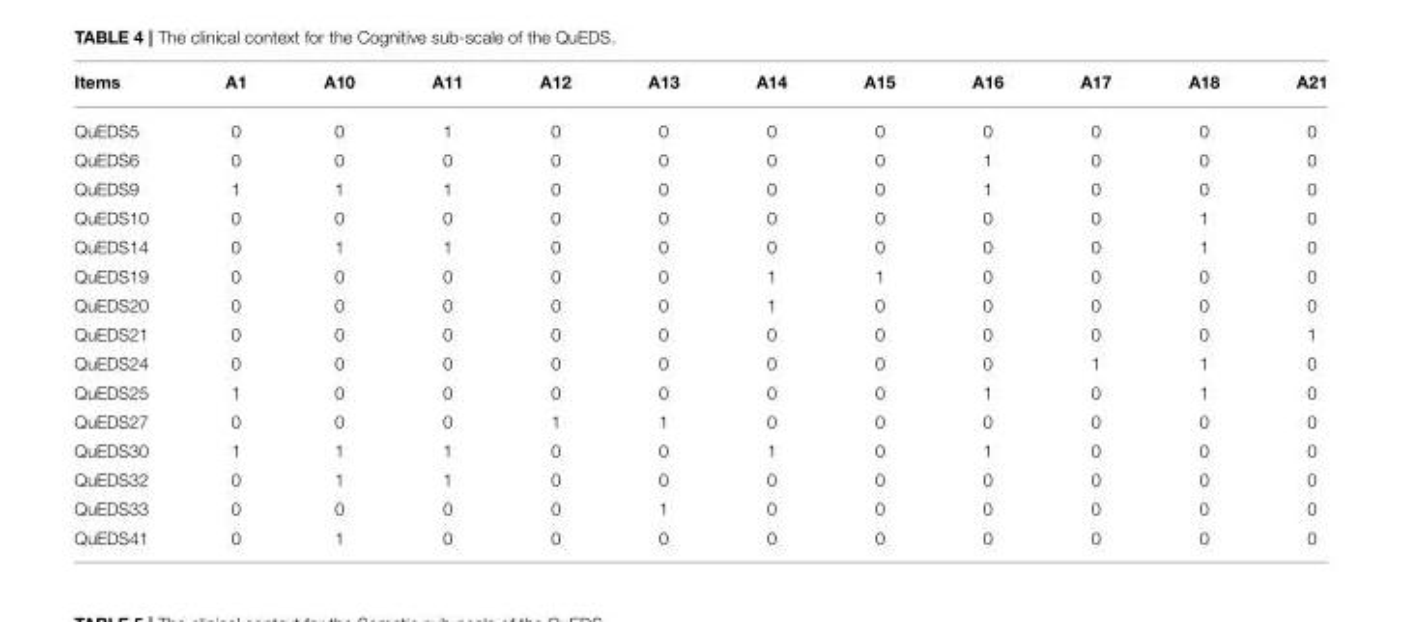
<table><thead><tr><td>Items</td><td>A1</td><td>A10</td><td>A11</td><td>A12</td><td>A13</td><td>A14</td><td>A15</td><td>A16</td><td>A17</td><td>A18</td><td>A21</td></tr></thead><tbody><tr><td>QuEDS5</td><td>0</td><td>0</td><td>1</td><td>0</td><td>0</td><td>0</td><td>0</td><td>0</td><td>0</td><td>0</td><td>0</td></tr><tr><td>QuEDS6</td><td>0</td><td>0</td><td>0</td><td>0</td><td>0</td><td>0</td><td>0</td><td>1</td><td>0</td><td>0</td><td>0</td></tr><tr><td>QuEDS9</td><td>1</td><td>1</td><td>1</td><td>0</td><td>0</td><td>0</td><td>0</td><td>1</td><td>0</td><td>0</td><td>0</td></tr><tr><td>QuEDS10</td><td>0</td><td>0</td><td>0</td><td>0</td><td>0</td><td>0</td><td>0</td><td>0</td><td>0</td><td>1</td><td>0</td></tr><tr><td>QuEDS14</td><td>0</td><td>1</td><td>1</td><td>0</td><td>0</td><td>0</td><td>0</td><td>0</td><td>0</td><td>1</td><td>0</td></tr><tr><td>QuEDS19</td><td>0</td><td>0</td><td>0</td><td>0</td><td>0</td><td>1</td><td>1</td><td>0</td><td>0</td><td>0</td><td>0</td></tr><tr><td>QuEDS20</td><td>0</td><td>0</td><td>0</td><td>0</td><td>0</td><td>1</td><td>0</td><td>0</td><td>0</td><td>0</td><td>0</td></tr><tr><td>QuEDS21</td><td>0</td><td>0</td><td>0</td><td>0</td><td>0</td><td>0</td><td>0</td><td>0</td><td>0</td><td>0</td><td>1</td></tr><tr><td>QuEDS24</td><td>0</td><td>0</td><td>0</td><td>0</td><td>0</td><td>0</td><td>0</td><td>0</td><td>1</td><td>1</td><td>0</td></tr><tr><td>QuEDS25</td><td>1</td><td>0</td><td>0</td><td>0</td><td>0</td><td>0</td><td>0</td><td>1</td><td>0</td><td>1</td><td>0</td></tr><tr><td>QuEDS27</td><td>0</td><td>0</td><td>0</td><td>1</td><td>1</td><td>0</td><td>0</td><td>0</td><td>0</td><td>0</td><td>0</td></tr><tr><td>QuEDS30</td><td>1</td><td>1</td><td>1</td><td>0</td><td>0</td><td>1</td><td>0</td><td>1</td><td>0</td><td>0</td><td>0</td></tr><tr><td>QuEDS32</td><td>0</td><td>1</td><td>1</td><td>0</td><td>0</td><td>0</td><td>0</td><td>0</td><td>0</td><td>0</td><td>0</td></tr><tr><td>QuEDS33</td><td>0</td><td>0</td><td>0</td><td>0</td><td>1</td><td>0</td><td>0</td><td>0</td><td>0</td><td>0</td><td>0</td></tr><tr><td>QuEDS41</td><td>0</td><td>1</td><td>0</td><td>0</td><td>0</td><td>0</td><td>0</td><td>0</td><td>0</td><td>0</td><td>0</td></tr></tbody></table>